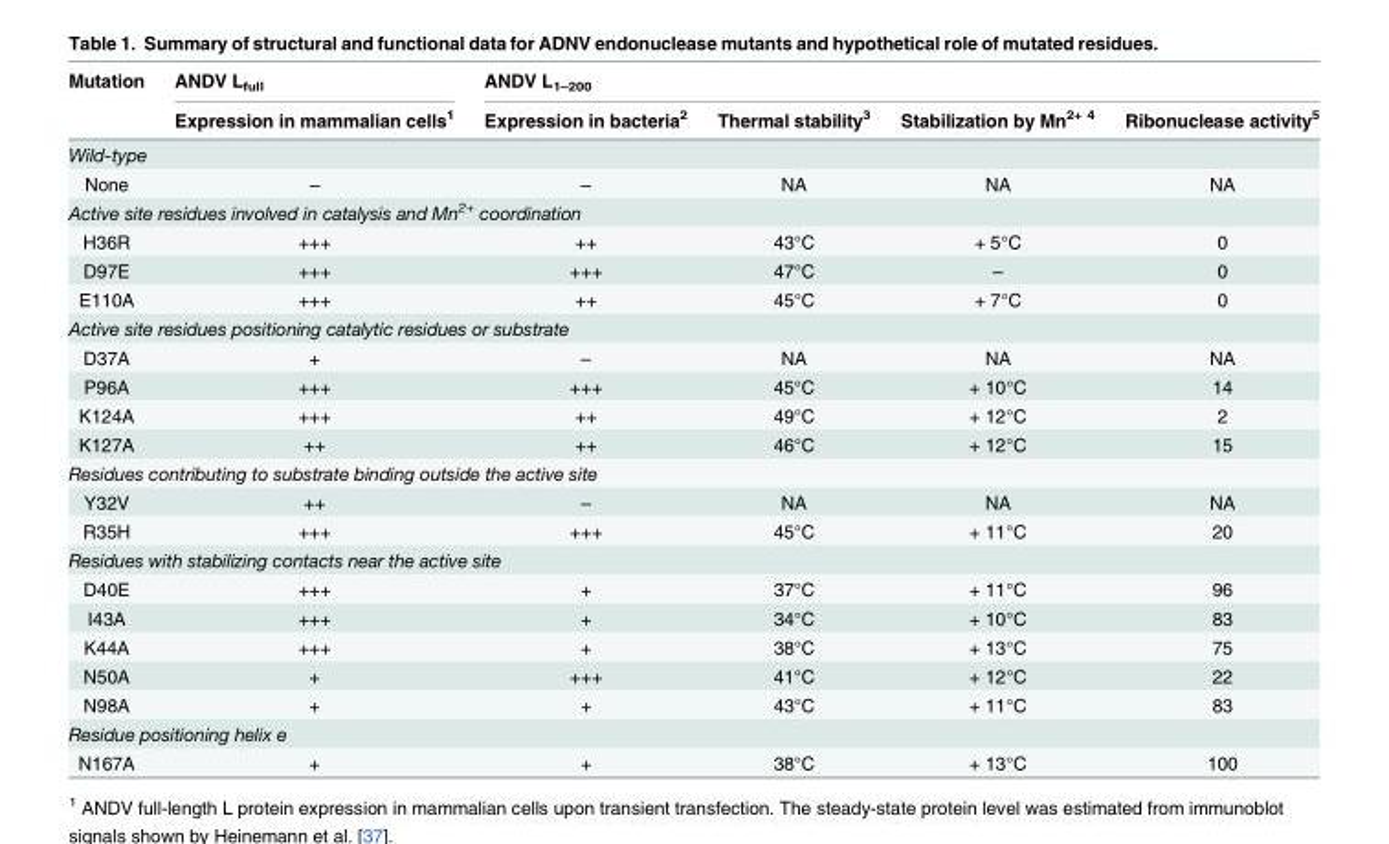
<table><thead><tr><td rowspan="2">Mutation</td><td rowspan="2">ANDV L<sub>full</sub> Expression in mammalian cells<sup>1</sup></td><td colspan="4">ANDV L<sub>1–200</sub></td></tr><tr><td>Expression in bacteria<sup>2</sup></td><td>Thermal stability<sup>3</sup></td><td>Stabilization by Mn<sup>2+ 4</sup></td><td>Ribonuclease activity<sup>5</sup></td></tr></thead><tbody><tr><td colspan="6">Wild-type</td></tr><tr><td>None</td><td>–</td><td>–</td><td>NA</td><td>NA</td><td>NA</td></tr><tr><td colspan="6">Active site residues involved in catalysis and Mn<sup>2+</sup> coordination</td></tr><tr><td>H36R</td><td>+++</td><td>++</td><td>43°C</td><td>+ 5°C</td><td>0</td></tr><tr><td>D97E</td><td>+++</td><td>+++</td><td>47°C</td><td>–</td><td>0</td></tr><tr><td>E110A</td><td>+++</td><td>++</td><td>45°C</td><td>+ 7°C</td><td>0</td></tr><tr><td colspan="6">Active site residues positioning catalytic residues or substrate</td></tr><tr><td>D37A</td><td>+</td><td>–</td><td>NA</td><td>NA</td><td>NA</td></tr><tr><td>P96A</td><td>+++</td><td>+++</td><td>45°C</td><td>+ 10°C</td><td>14</td></tr><tr><td>K124A</td><td>+++</td><td>++</td><td>49°C</td><td>+ 12°C</td><td>2</td></tr><tr><td>K127A</td><td>++</td><td>++</td><td>46°C</td><td>+ 12°C</td><td>15</td></tr><tr><td colspan="6">Residues contributing to substrate binding outside the active site</td></tr><tr><td>Y32V</td><td>++</td><td>–</td><td>NA</td><td>NA</td><td>NA</td></tr><tr><td>R35H</td><td>+++</td><td>+++</td><td>45°C</td><td>+ 11°C</td><td>20</td></tr><tr><td colspan="6">Residues with stabilizing contacts near the active site</td></tr><tr><td>D40E</td><td>+++</td><td>+</td><td>37°C</td><td>+ 11°C</td><td>96</td></tr><tr><td>I43A</td><td>+++</td><td>+</td><td>34°C</td><td>+ 10°C</td><td>83</td></tr><tr><td>K44A</td><td>+++</td><td>+</td><td>38°C</td><td>+ 13°C</td><td>75</td></tr><tr><td>N50A</td><td>+</td><td>+++</td><td>41°C</td><td>+ 12°C</td><td>22</td></tr><tr><td>N98A</td><td>+</td><td>+</td><td>43°C</td><td>+ 11°C</td><td>83</td></tr><tr><td colspan="6">Residue positioning helix e</td></tr><tr><td>N167A</td><td>+</td><td>+</td><td>38°C</td><td>+ 13°C</td><td>100</td></tr></tbody></table>